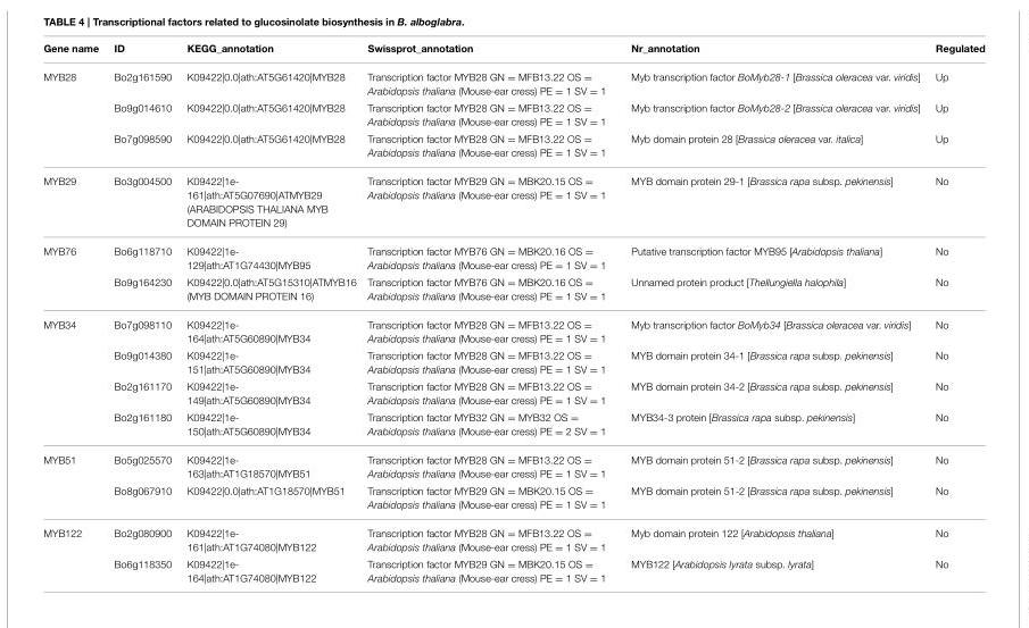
<table><thead><tr><td>Gene name</td><td>ID</td><td>KEGG_annotation</td><td>Swissprot_annotation</td><td>Nr_annotation</td><td>Regulated</td></tr></thead><tbody><tr><td rowspan="3">MYB28</td><td>Bo2g161590</td><td>K09422|0.0|ath:AT5G61420|MYB28</td><td>Transcription factor MYB28 GN = MFB13.22 OS = Arabidopsis thaliana (Mouse-ear cress) PE = 1 SV = 1</td><td>Myb transcription factor BoMyb28-1 [Brassica oleracea var. viridis]</td><td>Up</td></tr><tr><td>Bo9g014610</td><td>K09422|0.0|ath:AT5G61420|MYB28</td><td>Transcription factor MYB28 GN = MFB13.22 OS = Arabidopsis thaliana (Mouse-ear cress) PE = 1 SV = 1</td><td>Myb transcription factor BoMyb28-2 [Brassica oleracea var. viridis]</td><td>Up</td></tr><tr><td>Bo7g098590</td><td>K09422|0.0|ath:AT5G61420|MYB28</td><td>Transcription factor MYB28 GN = MFB13.22 OS = Arabidopsis thaliana (Mouse-ear cress) PE = 1 SV = 1</td><td>Myb domain protein 28 [Brassica oleracea var. italica]</td><td>Up</td></tr><tr><td>MYB29</td><td>Bo3g004500</td><td>K09422|1e- 161|ath:AT5G07690|ATMYB29 (ARABIDOPSIS THALIANA MYB DOMAIN PROTEIN 29)</td><td>Transcription factor MYB29 GN = MBK20.15 OS = Arabidopsis thaliana (Mouse-ear cress) PE = 1 SV = 1</td><td>MYB domain protein 29-1 [Brassica rapa subsp. pekinensis]</td><td>No</td></tr><tr><td rowspan="2">MYB76</td><td>Bo6g118710</td><td>K09422|1e- 129|ath:AT1G74430|MYB95</td><td>Transcription factor MYB76 GN = MBK20.16 OS = Arabidopsis thaliana (Mouse-ear cress) PE = 1 SV = 1</td><td>Putative transcription factor MYB95 [Arabidopsis thaliana]</td><td>No</td></tr><tr><td>Bo9g164230</td><td>K09422|0.0|ath:AT5G15310|ATMYB16 (MYB DOMAIN PROTEIN 16)</td><td>Transcription factor MYB76 GN = MBK20.16 OS = Arabidopsis thaliana (Mouse-ear cress) PE = 1 SV = 1</td><td>Unnamed protein product [Thellungiella halophila]</td><td>No</td></tr><tr><td rowspan="4">MYB34</td><td>Bo7g098110</td><td>K09422|1e- 164|ath:AT5G60890|MYB34</td><td>Transcription factor MYB28 GN = MFB13.22 OS = Arabidopsis thaliana (Mouse-ear cress) PE = 1 SV = 1</td><td>Myb transcription factor BoMyb34 [Brassica oleracea var. viridis]</td><td>No</td></tr><tr><td>Bo9g014380</td><td>K09422|1e- 151|ath:AT5G60890|MYB34</td><td>Transcription factor MYB28 GN = MFB13.22 OS = Arabidopsis thaliana (Mouse-ear cress) PE = 1 SV = 1</td><td>MYB domain protein 34-1 [Brassica rapa subsp. pekinensis]</td><td>No</td></tr><tr><td>Bo2g161170</td><td>K09422|1e- 149|ath:AT5G60890|MYB34</td><td>Transcription factor MYB28 GN = MFB13.22 OS = Arabidopsis thaliana (Mouse-ear cress) PE = 1 SV = 1</td><td>MYB domain protein 34-2 [Brassica rapa subsp. pekinensis]</td><td>No</td></tr><tr><td>Bo2g161180</td><td>K09422|1e- 150|ath:AT5G60890|MYB34</td><td>Transcription factor MYB32 GN = MYB32 OS = Arabidopsis thaliana (Mouse-ear cress) PE = 2 SV = 1</td><td>MYB34-3 protein [Brassica rapa subsp. pekinensis]</td><td>No</td></tr><tr><td rowspan="2">MYB51</td><td>Bo5g025570</td><td>K09422|1e- 163|ath:AT1G18570|MYB51</td><td>Transcription factor MYB28 GN = MFB13.22 OS = Arabidopsis thaliana (Mouse-ear cress) PE = 1 SV = 1</td><td>MYB domain protein 51-2 [Brassica rapa subsp. pekinensis]</td><td>No</td></tr><tr><td>Bo8g067910</td><td>K09422|0.0|ath:AT1G18570|MYB51</td><td>Transcription factor MYB29 GN = MBK20.15 OS = Arabidopsis thaliana (Mouse-ear cress) PE = 1 SV = 1</td><td>MYB domain protein 51-2 [Brassica rapa subsp. pekinensis]</td><td>No</td></tr><tr><td rowspan="2">MYB122</td><td>Bo2g080900</td><td>K09422|1e- 161|ath:AT1G74080|MYB122</td><td>Transcription factor MYB28 GN = MFB13.22 OS = Arabidopsis thaliana (Mouse-ear cress) PE = 1 SV = 1</td><td>Myb domain protein 122 [Arabidopsis thaliana]</td><td>No</td></tr><tr><td>Bo6g118350</td><td>K09422|1e- 164|ath:AT1G74080|MYB122</td><td>Transcription factor MYB29 GN = MBK20.15 OS = Arabidopsis thaliana (Mouse-ear cress) PE = 1 SV = 1</td><td>MYB122 [Arabidopsis lyrata subsp. lyrata]</td><td>No</td></tr></tbody></table>